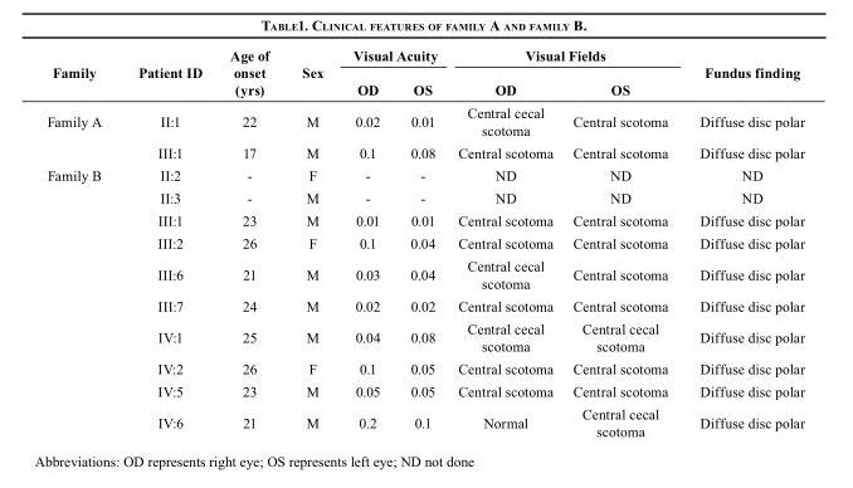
<table><thead><tr><td rowspan="2">Family</td><td rowspan="2">Patient ID</td><td rowspan="2">Age of onset (yrs)</td><td rowspan="2">Sex</td><td colspan="2">Visual Acuity</td><td colspan="2">Visual Fields</td><td rowspan="2">Fundus finding</td></tr><tr><td>OD</td><td>OS</td><td>OD</td><td>OS</td></tr></thead><tbody><tr><td rowspan="2">Family A</td><td>II:1</td><td>22</td><td>M</td><td>0.02</td><td>0.01</td><td>Central cecal scotoma</td><td>Central scotoma</td><td>Diffuse disc polar</td></tr><tr><td>III:1</td><td>17</td><td>M</td><td>0.1</td><td>0.08</td><td>Central scotoma</td><td>Central scotoma</td><td>Diffuse disc polar</td></tr><tr><td rowspan="10">Family B</td><td>II:2</td><td>-</td><td>F</td><td>-</td><td>-</td><td>ND</td><td>ND</td><td>ND</td></tr><tr><td>II:3</td><td>-</td><td>M</td><td>-</td><td>-</td><td>ND</td><td>ND</td><td>ND</td></tr><tr><td>III:1</td><td>23</td><td>M</td><td>0.01</td><td>0.01</td><td>Central scotoma</td><td>Central scotoma</td><td>Diffuse disc polar</td></tr><tr><td>III:2</td><td>26</td><td>F</td><td>0.1</td><td>0.04</td><td>Central scotoma</td><td>Central scotoma</td><td>Diffuse disc polar</td></tr><tr><td>III:6</td><td>21</td><td>M</td><td>0.03</td><td>0.04</td><td>Central cecal scotoma</td><td>Central scotoma</td><td>Diffuse disc polar</td></tr><tr><td>III:7</td><td>24</td><td>M</td><td>0.02</td><td>0.02</td><td>Central scotoma</td><td>Central scotoma</td><td>Diffuse disc polar</td></tr><tr><td>IV:1</td><td>25</td><td>M</td><td>0.04</td><td>0.08</td><td>Central cecal scotoma</td><td>Central cecal scotoma</td><td>Diffuse disc polar</td></tr><tr><td>IV:2</td><td>26</td><td>F</td><td>0.1</td><td>0.05</td><td>Central scotoma</td><td>Central scotoma</td><td>Diffuse disc polar</td></tr><tr><td>IV:5</td><td>23</td><td>M</td><td>0.05</td><td>0.05</td><td>Central scotoma</td><td>Central scotoma</td><td>Diffuse disc polar</td></tr><tr><td>IV:6</td><td>21</td><td>M</td><td>0.2</td><td>0.1</td><td>Normal</td><td>Central cecal scotoma</td><td>Diffuse disc polar</td></tr></tbody></table>